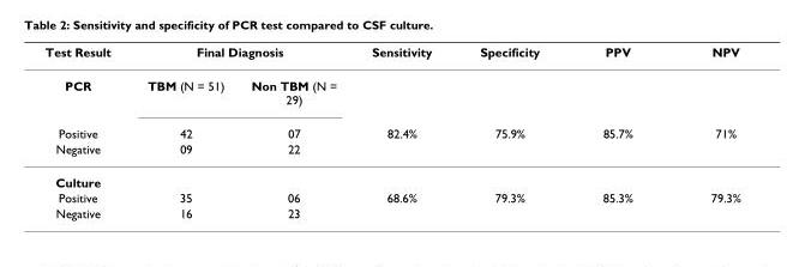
<table><thead><tr><td rowspan="2">Test Result PCR</td><td colspan="2">Final Diagnosis</td><td rowspan="2">Sensitivity</td><td rowspan="2">Specificity</td><td rowspan="2">PPV</td><td rowspan="2">NPV</td></tr><tr><td>TBM (N = 51)</td><td>Non TBM (N = 29)</td></tr></thead><tbody><tr><td>Positive</td><td>42</td><td>07</td><td>82.4%</td><td>75.9%</td><td>85.7%</td><td>71%</td></tr><tr><td>Negative</td><td>09</td><td>22</td><td></td><td></td><td></td><td></td></tr><tr><td colspan="7">Culture</td></tr><tr><td>Positive</td><td>35</td><td>06</td><td>68.6%</td><td>79.3%</td><td>85.3%</td><td>79.3%</td></tr><tr><td>Negative</td><td>16</td><td>23</td><td></td><td></td><td></td><td></td></tr></tbody></table>